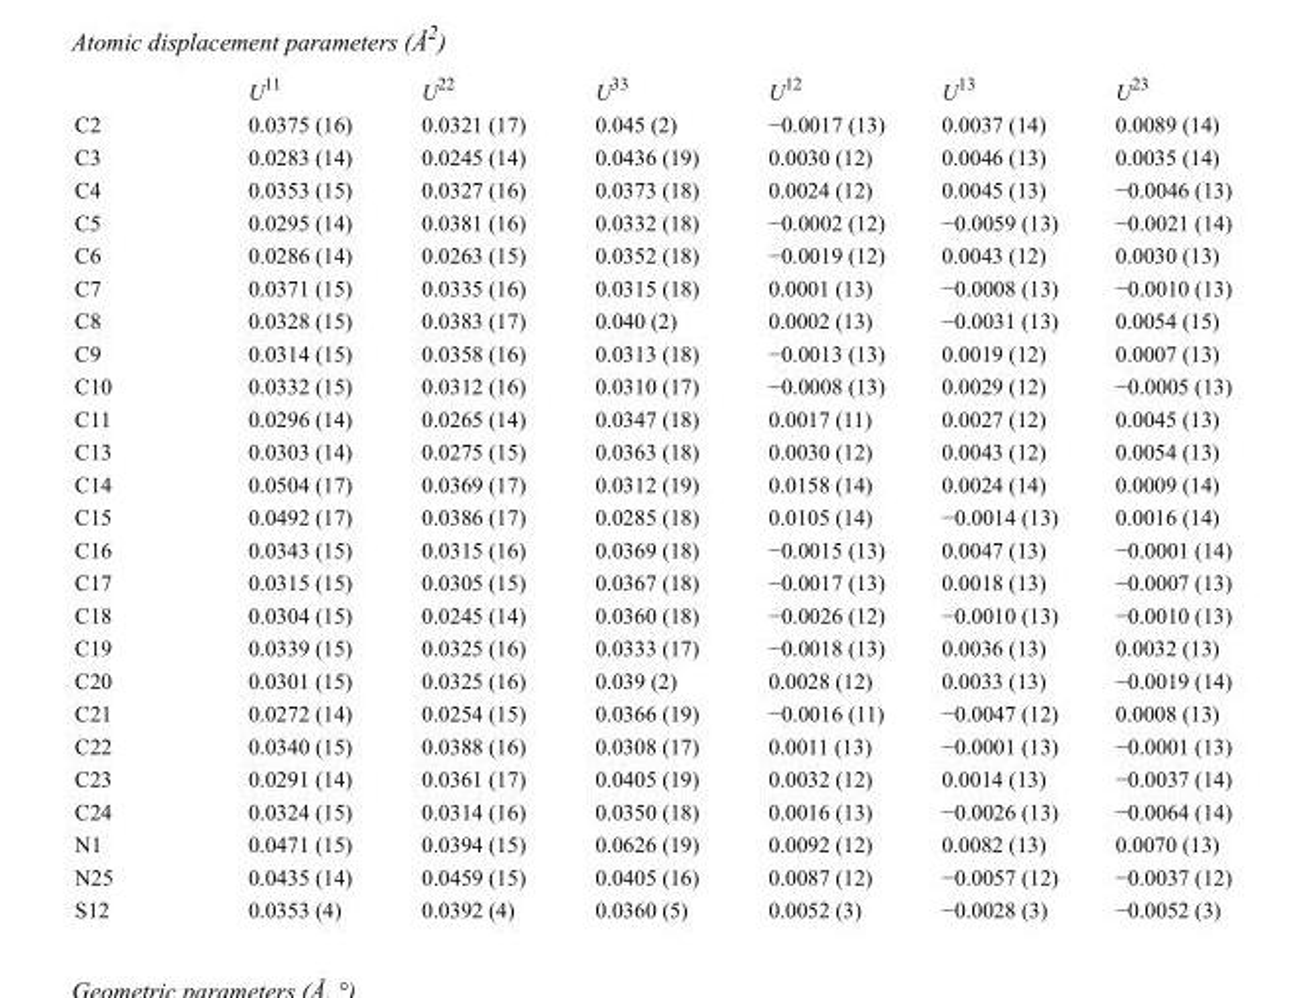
<table><thead><tr><td></td><td>U<sup>11</sup></td><td>U<sup>22</sup></td><td>U<sup>33</sup></td><td>U<sup>12</sup></td><td>U<sup>13</sup></td><td>U<sup>23</sup></td></tr></thead><tbody><tr><td>C2</td><td>0.0375 (16)</td><td>0.0321 (17)</td><td>0.045 (2)</td><td>−0.0017 (13)</td><td>0.0037 (14)</td><td>0.0089 (14)</td></tr><tr><td>C3</td><td>0.0283 (14)</td><td>0.0245 (14)</td><td>0.0436 (19)</td><td>0.0030 (12)</td><td>0.0046 (13)</td><td>0.0035 (14)</td></tr><tr><td>C4</td><td>0.0353 (15)</td><td>0.0327 (16)</td><td>0.0373 (18)</td><td>0.0024 (12)</td><td>0.0045 (13)</td><td>−0.0046 (13)</td></tr><tr><td>C5</td><td>0.0295 (14)</td><td>0.0381 (16)</td><td>0.0332 (18)</td><td>−0.0002 (12)</td><td>−0.0059 (13)</td><td>−0.0021 (14)</td></tr><tr><td>C6</td><td>0.0286 (14)</td><td>0.0263 (15)</td><td>0.0352 (18)</td><td>−0.0019 (12)</td><td>0.0043 (12)</td><td>0.0030 (13)</td></tr><tr><td>C7</td><td>0.0371 (15)</td><td>0.0335 (16)</td><td>0.0315 (18)</td><td>0.0001 (13)</td><td>−0.0008 (13)</td><td>−0.0010 (13)</td></tr><tr><td>C8</td><td>0.0328 (15)</td><td>0.0383 (17)</td><td>0.040 (2)</td><td>0.0002 (13)</td><td>−0.0031 (13)</td><td>0.0054 (15)</td></tr><tr><td>C9</td><td>0.0314 (15)</td><td>0.0358 (16)</td><td>0.0313 (18)</td><td>−0.0013 (13)</td><td>0.0019 (12)</td><td>0.0007 (13)</td></tr><tr><td>C10</td><td>0.0332 (15)</td><td>0.0312 (16)</td><td>0.0310 (17)</td><td>−0.0008 (13)</td><td>0.0029 (12)</td><td>−0.0005 (13)</td></tr><tr><td>C11</td><td>0.0296 (14)</td><td>0.0265 (14)</td><td>0.0347 (18)</td><td>0.0017 (11)</td><td>0.0027 (12)</td><td>0.0045 (13)</td></tr><tr><td>C13</td><td>0.0303 (14)</td><td>0.0275 (15)</td><td>0.0363 (18)</td><td>0.0030 (12)</td><td>0.0043 (12)</td><td>0.0054 (13)</td></tr><tr><td>C14</td><td>0.0504 (17)</td><td>0.0369 (17)</td><td>0.0312 (19)</td><td>0.0158 (14)</td><td>0.0024 (14)</td><td>0.0009 (14)</td></tr><tr><td>C15</td><td>0.0492 (17)</td><td>0.0386 (17)</td><td>0.0285 (18)</td><td>0.0105 (14)</td><td>−0.0014 (13)</td><td>0.0016 (14)</td></tr><tr><td>C16</td><td>0.0343 (15)</td><td>0.0315 (16)</td><td>0.0369 (18)</td><td>−0.0015 (13)</td><td>0.0047 (13)</td><td>−0.0001 (14)</td></tr><tr><td>C17</td><td>0.0315 (15)</td><td>0.0305 (15)</td><td>0.0367 (18)</td><td>−0.0017 (13)</td><td>0.0018 (13)</td><td>−0.0007 (13)</td></tr><tr><td>C18</td><td>0.0304 (15)</td><td>0.0245 (14)</td><td>0.0360 (18)</td><td>−0.0026 (12)</td><td>−0.0010 (13)</td><td>−0.0010 (13)</td></tr><tr><td>C19</td><td>0.0339 (15)</td><td>0.0325 (16)</td><td>0.0333 (17)</td><td>−0.0018 (13)</td><td>0.0036 (13)</td><td>0.0032 (13)</td></tr><tr><td>C20</td><td>0.0301 (15)</td><td>0.0325 (16)</td><td>0.039 (2)</td><td>0.0028 (12)</td><td>0.0033 (13)</td><td>−0.0019 (14)</td></tr><tr><td>C21</td><td>0.0272 (14)</td><td>0.0254 (15)</td><td>0.0366 (19)</td><td>−0.0016 (11)</td><td>−0.0047 (12)</td><td>0.0008 (13)</td></tr><tr><td>C22</td><td>0.0340 (15)</td><td>0.0388 (16)</td><td>0.0308 (17)</td><td>0.0011 (13)</td><td>−0.0001 (13)</td><td>−0.0001 (13)</td></tr><tr><td>C23</td><td>0.0291 (14)</td><td>0.0361 (17)</td><td>0.0405 (19)</td><td>0.0032 (12)</td><td>0.0014 (13)</td><td>−0.0037 (14)</td></tr><tr><td>C24</td><td>0.0324 (15)</td><td>0.0314 (16)</td><td>0.0350 (18)</td><td>0.0016 (13)</td><td>−0.0026 (13)</td><td>−0.0064 (14)</td></tr><tr><td>N1</td><td>0.0471 (15)</td><td>0.0394 (15)</td><td>0.0626 (19)</td><td>0.0092 (12)</td><td>0.0082 (13)</td><td>0.0070 (13)</td></tr><tr><td>N25</td><td>0.0435 (14)</td><td>0.0459 (15)</td><td>0.0405 (16)</td><td>0.0087 (12)</td><td>−0.0057 (12)</td><td>−0.0037 (12)</td></tr><tr><td>S12</td><td>0.0353 (4)</td><td>0.0392 (4)</td><td>0.0360 (5)</td><td>0.0052 (3)</td><td>−0.0028 (3)</td><td>−0.0052 (3)</td></tr></tbody></table>